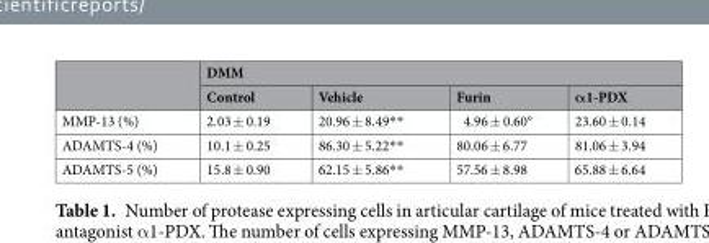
<table><thead><tr><td rowspan="2"></td><td colspan="4">DMM</td></tr><tr><td>Control</td><td>Vehicle</td><td>Furin</td><td>α1-PDX</td></tr></thead><tbody><tr><td>MMP-13 (%)</td><td>2.03 ± 0.19</td><td>20.96 ± 8.49**</td><td>4.96 ± 0.60°</td><td>23.60 ± 0.14</td></tr><tr><td>ADAMTS-4 (%)</td><td>10.1 ± 0.25</td><td>86.30 ± 5.22**</td><td>80.06 ± 6.77</td><td>81.06 ± 3.94</td></tr><tr><td>ADAMTS-5 (%)</td><td>15.8 ± 0.90</td><td>62.15 ± 5.86**</td><td>57.56 ± 8.98</td><td>65.88 ± 6.64</td></tr></tbody></table>